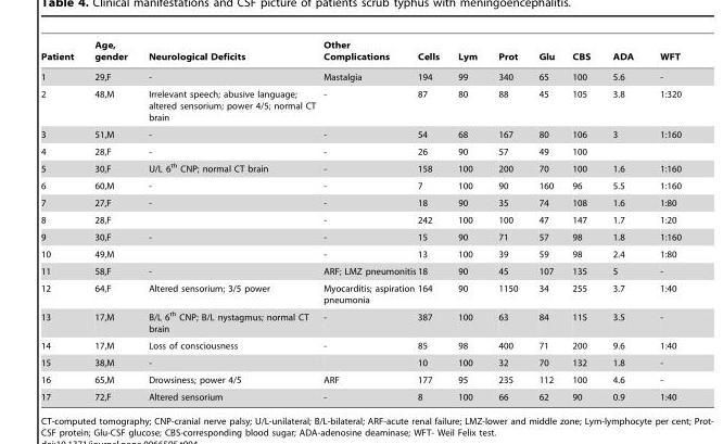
<table><thead><tr><td>Patient</td><td>Age, gender</td><td>Neurological Deficits</td><td>Other Complications</td><td>Cells</td><td>Lym</td><td>Prot</td><td>Glu</td><td>CBS</td><td>ADA</td><td>WFT</td></tr></thead><tbody><tr><td>1</td><td>29,F</td><td>-</td><td>Mastalgia</td><td>194</td><td>99</td><td>340</td><td>65</td><td>100</td><td>5.6</td><td>-</td></tr><tr><td>2</td><td>48,M</td><td>Irrelevant speech; abusive language; altered sensorium; power 4/5; normal CT brain</td><td>-</td><td>87</td><td>80</td><td>88</td><td>45</td><td>105</td><td>3.8</td><td>1:320</td></tr><tr><td>3</td><td>51,M</td><td>-</td><td>-</td><td>54</td><td>68</td><td>167</td><td>80</td><td>106</td><td>3</td><td>1:160</td></tr><tr><td>4</td><td>28,F</td><td>-</td><td>-</td><td>26</td><td>90</td><td>57</td><td>49</td><td>100</td><td></td><td></td></tr><tr><td>5</td><td>30,F</td><td>U/L 6<sup>th</sup> CNP; normal CT brain</td><td>-</td><td>158</td><td>100</td><td>200</td><td>70</td><td>100</td><td>1.6</td><td>1:160</td></tr><tr><td>6</td><td>60,M</td><td>-</td><td>-</td><td>7</td><td>100</td><td>90</td><td>160</td><td>96</td><td>5.5</td><td>1:160</td></tr><tr><td>7</td><td>27,F</td><td>-</td><td>-</td><td>18</td><td>90</td><td>35</td><td>74</td><td>108</td><td>1.6</td><td>1:80</td></tr><tr><td>8</td><td>28,F</td><td></td><td>-</td><td>242</td><td>100</td><td>100</td><td>47</td><td>147</td><td>1.7</td><td>1:20</td></tr><tr><td>9</td><td>30,F</td><td>-</td><td>-</td><td>15</td><td>90</td><td>71</td><td>57</td><td>98</td><td>1.8</td><td>1:160</td></tr><tr><td>10</td><td>49,M</td><td></td><td>-</td><td>13</td><td>100</td><td>39</td><td>59</td><td>98</td><td>2.4</td><td>1:80</td></tr><tr><td>11</td><td>58,F</td><td>-</td><td>ARF; LMZ pneumonitis</td><td>18</td><td>90</td><td>45</td><td>107</td><td>135</td><td>5</td><td>-</td></tr><tr><td>12</td><td>64,F</td><td>Altered sensorium; 3/5 power</td><td>Myocarditis; aspiration pneumonia</td><td>164</td><td>90</td><td>1150</td><td>34</td><td>255</td><td>3.7</td><td>1:40</td></tr><tr><td>13</td><td>17,M</td><td>B/L 6<sup>th</sup> CNP; B/L nystagmus; normal CT brain</td><td>-</td><td>387</td><td>100</td><td>63</td><td>84</td><td>115</td><td>3.5</td><td>-</td></tr><tr><td>14</td><td>17,M</td><td>Loss of consciousness</td><td>-</td><td>85</td><td>98</td><td>400</td><td>71</td><td>200</td><td>9.6</td><td>1:40</td></tr><tr><td>15</td><td>38,M</td><td>-</td><td></td><td>10</td><td>100</td><td>32</td><td>70</td><td>132</td><td>1.8</td><td>-</td></tr><tr><td>16</td><td>65,M</td><td>Drowsiness; power 4/5</td><td>ARF</td><td>177</td><td>95</td><td>235</td><td>112</td><td>100</td><td>4.6</td><td>-</td></tr><tr><td>17</td><td>72,F</td><td>Altered sensorium</td><td>-</td><td>8</td><td>100</td><td>66</td><td>62</td><td>90</td><td>0.9</td><td>1:40</td></tr></tbody></table>